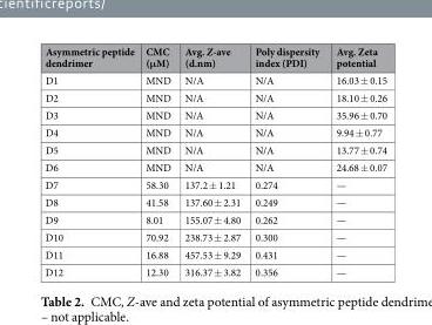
<table><thead><tr><td>Asymmetric peptide dendrimer</td><td>CMC (μM)</td><td>Avg. Z-ave (d.nm)</td><td>Poly dispersity index (PDI)</td><td>Avg. Zeta potential</td></tr></thead><tbody><tr><td>D1</td><td>MND</td><td>N/A</td><td>N/A</td><td>16.03 ± 0.15</td></tr><tr><td>D2</td><td>MND</td><td>N/A</td><td>N/A</td><td>18.10 ± 0.26</td></tr><tr><td>D3</td><td>MND</td><td>N/A</td><td>N/A</td><td>35.96 ± 0.70</td></tr><tr><td>D4</td><td>MND</td><td>N/A</td><td>N/A</td><td>9.94 ± 0.77</td></tr><tr><td>D5</td><td>MND</td><td>N/A</td><td>N/A</td><td>13.77 ± 0.74</td></tr><tr><td>D6</td><td>MND</td><td>N/A</td><td>N/A</td><td>24.68 ± 0.07</td></tr><tr><td>D7</td><td>58.30</td><td>137.2 ± 1.21</td><td>0.274</td><td>—</td></tr><tr><td>D8</td><td>41.58</td><td>137.60 ± 2.31</td><td>0.249</td><td>—</td></tr><tr><td>D9</td><td>8.01</td><td>155.07 ± 4.80</td><td>0.262</td><td>—</td></tr><tr><td>D10</td><td>70.92</td><td>238.73 ± 2.87</td><td>0.300</td><td>—</td></tr><tr><td>D11</td><td>16.88</td><td>457.53 ± 9.29</td><td>0.431</td><td>—</td></tr><tr><td>D12</td><td>12.30</td><td>316.37 ± 3.82</td><td>0.356</td><td>—</td></tr></tbody></table>